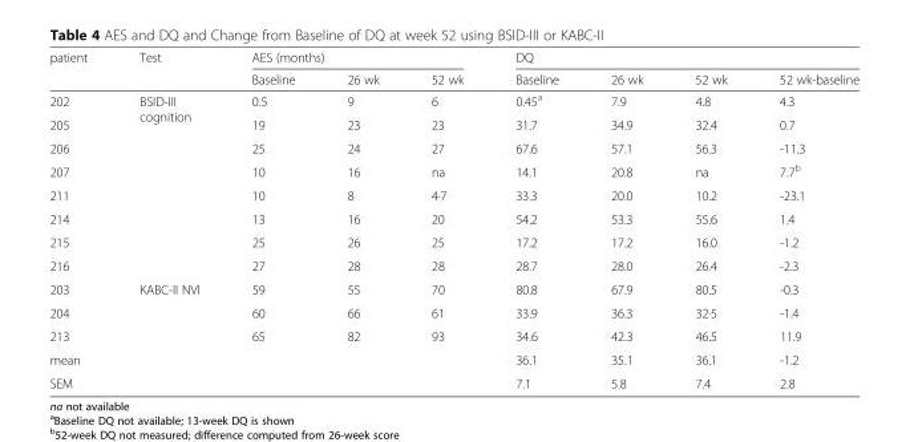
<table><thead><tr><td rowspan="2">patient</td><td rowspan="2">Test</td><td colspan="3">AES (months)</td><td colspan="4">DQ</td></tr><tr><td>Baseline</td><td>26 wk</td><td>52 wk</td><td>Baseline</td><td>26 wk</td><td>52 wk</td><td>52 wk-baseline</td></tr></thead><tbody><tr><td>202</td><td rowspan="8">BSID-III cognition</td><td>0.5</td><td>9</td><td>6</td><td>0.45<sup>a</sup></td><td>7.9</td><td>4.8</td><td>4.3</td></tr><tr><td>205</td><td>19</td><td>23</td><td>23</td><td>31.7</td><td>34.9</td><td>32.4</td><td>0.7</td></tr><tr><td>206</td><td>25</td><td>24</td><td>27</td><td>67.6</td><td>57.1</td><td>56.3</td><td>-11.3</td></tr><tr><td>207</td><td>10</td><td>16</td><td>na</td><td>14.1</td><td>20.8</td><td>na</td><td>7.7<sup>b</sup></td></tr><tr><td>211</td><td>10</td><td>8</td><td>4∙7</td><td>33.3</td><td>20.0</td><td>10.2</td><td>-23.1</td></tr><tr><td>214</td><td>13</td><td>16</td><td>20</td><td>54.2</td><td>53.3</td><td>55.6</td><td>1.4</td></tr><tr><td>215</td><td>25</td><td>26</td><td>25</td><td>17.2</td><td>17.2</td><td>16.0</td><td>-1.2</td></tr><tr><td>216</td><td>27</td><td>28</td><td>28</td><td>28.7</td><td>28.0</td><td>26.4</td><td>-2.3</td></tr><tr><td>203</td><td rowspan="3">KABC-II NVI</td><td>59</td><td>55</td><td>70</td><td>80.8</td><td>67.9</td><td>80.5</td><td>-0.3</td></tr><tr><td>204</td><td>60</td><td>66</td><td>61</td><td>33.9</td><td>36.3</td><td>32∙5</td><td>-1.4</td></tr><tr><td>213</td><td>65</td><td>82</td><td>93</td><td>34.6</td><td>42.3</td><td>46.5</td><td>11.9</td></tr><tr><td colspan="2">mean</td><td></td><td></td><td></td><td>36.1</td><td>35.1</td><td>36.1</td><td>-1.2</td></tr><tr><td colspan="2">SEM</td><td></td><td></td><td></td><td>7.1</td><td>5.8</td><td>7.4</td><td>2.8</td></tr></tbody></table>